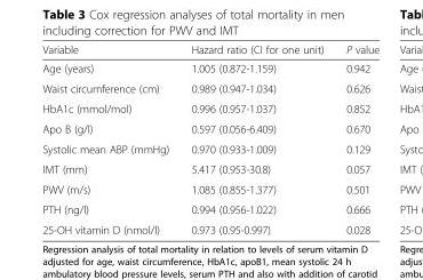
<table><thead><tr><td>Variable</td><td>Hazard ratio (CI for one unit)</td><td>P value</td></tr></thead><tbody><tr><td>Age (years)</td><td>1.005 (0.872-1.159)</td><td>0.942</td></tr><tr><td>Waist circumference (cm)</td><td>0.989 (0.947-1.034)</td><td>0.626</td></tr><tr><td>HbA1c (mmol/mol)</td><td>0.996 (0.957-1.037)</td><td>0.852</td></tr><tr><td>Apo B (g/l)</td><td>0.597 (0.056-6.409)</td><td>0.670</td></tr><tr><td>Systolic mean ABP (mmHg)</td><td>0.970 (0.933-1.009)</td><td>0.129</td></tr><tr><td>IMT (mm)</td><td>5.417 (0.953-30.8)</td><td>0.057</td></tr><tr><td>PWV (m/s)</td><td>1.085 (0.855-1.377)</td><td>0.501</td></tr><tr><td>PTH (ng/l)</td><td>0.994 (0.956-1.022)</td><td>0.666</td></tr><tr><td>25-OH vitamin D (nmol/l)</td><td>0.973 (0.95-0.997)</td><td>0.028</td></tr></tbody></table>